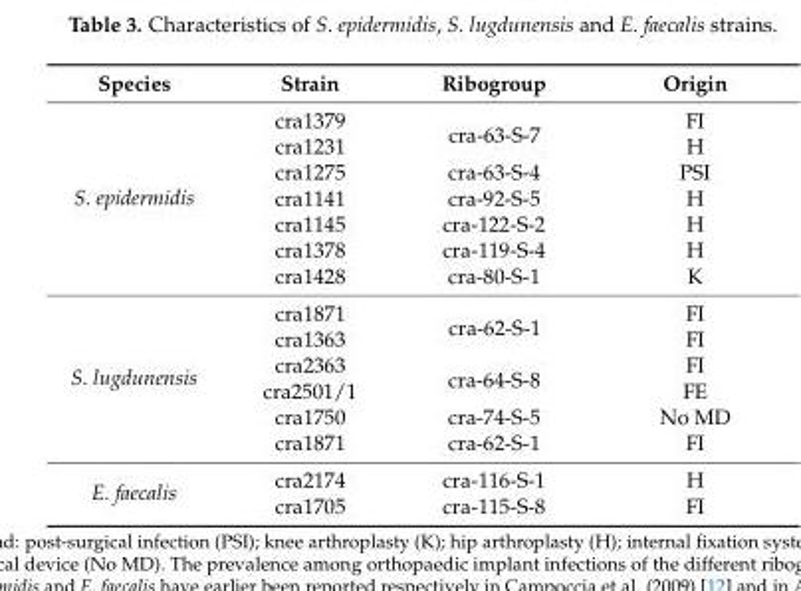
<table><thead><tr><td>Species</td><td>Strain</td><td>Ribogroup</td><td>Origin</td></tr></thead><tbody><tr><td rowspan="7">S. epidermidis</td><td>cra1379</td><td rowspan="2">cra-63-S-7</td><td>FI</td></tr><tr><td>cra1231</td><td>H</td></tr><tr><td>cra1275</td><td>cra-63-S-4</td><td>PSI</td></tr><tr><td>cra1141</td><td>cra-92-S-5</td><td>H</td></tr><tr><td>cra1145</td><td>cra-122-S-2</td><td>H</td></tr><tr><td>cra1378</td><td>cra-119-S-4</td><td>H</td></tr><tr><td>cra1428</td><td>cra-80-S-1</td><td>K</td></tr><tr><td rowspan="6">S. lugdunensis</td><td>cra1871</td><td rowspan="2">cra-62-S-1</td><td>FI</td></tr><tr><td>cra1363</td><td>FI</td></tr><tr><td>cra2363</td><td rowspan="2">cra-64-S-8</td><td>FI</td></tr><tr><td>cra2501/1</td><td>FE</td></tr><tr><td>cra1750</td><td>cra-74-S-5</td><td>No MD</td></tr><tr><td>cra1871</td><td>cra-62-S-1</td><td>FI</td></tr><tr><td rowspan="2">E. faecalis</td><td>cra2174</td><td>cra-116-S-1</td><td>H</td></tr><tr><td>cra1705</td><td>cra-115-S-8</td><td>FI</td></tr></tbody></table>